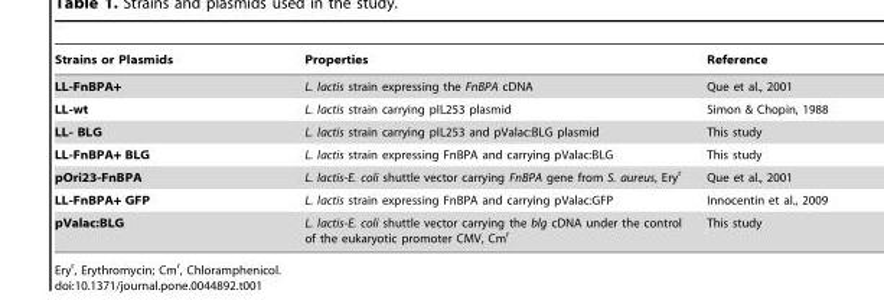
<table><thead><tr><td>Strains or Plasmids</td><td>Properties</td><td>Reference</td></tr></thead><tbody><tr><td>LL-FnBPA+</td><td>L. lactis strain expressing the FnBPA cDNA</td><td>Que et al., 2001</td></tr><tr><td>LL-wt</td><td>L. lactis strain carrying pIL253 plasmid</td><td>Simon &amp; Chopin, 1988</td></tr><tr><td>LL- BLG</td><td>L. lactis strain carrying pIL253 and pValac:BLG plasmid</td><td>This study</td></tr><tr><td>LL-FnBPA+ BLG</td><td>L. lactis strain expressing FnBPA and carrying pValac:BLG</td><td>This study</td></tr><tr><td>pOri23-FnBPA</td><td>L. lactis-E. coli shuttle vector carrying FnBPA gene from S. aureus, Ery<sup>r</sup></td><td>Que et al., 2001</td></tr><tr><td>LL-FnBPA+ GFP</td><td>L. lactis strain expressing FnBPA and carrying pValac:GFP</td><td>Innocentin et al., 2009</td></tr><tr><td>pValac:BLG</td><td>L. lactis-E. coli shuttle vector carrying the blg cDNA under the control of the eukaryotic promoter CMV, Cm<sup>r</sup></td><td>This study</td></tr></tbody></table>